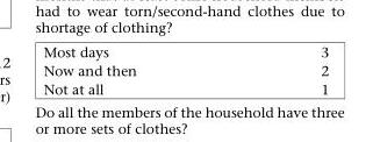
<table><tbody><tr><td>Most days</td><td>3</td></tr><tr><td>Now and then</td><td>2</td></tr><tr><td>Not at all</td><td>1</td></tr></tbody></table>